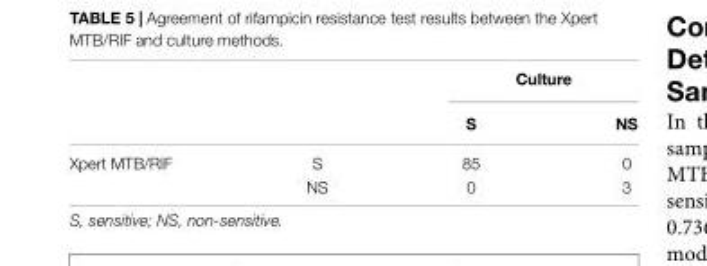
<table><thead><tr><td rowspan="2"></td><td rowspan="2"></td><td colspan="2">Culture</td></tr><tr><td>S</td><td>NS</td></tr></thead><tbody><tr><td rowspan="2">Xpert MTB/RIF</td><td>S</td><td>85</td><td>0</td></tr><tr><td>NS</td><td>0</td><td>3</td></tr></tbody></table>